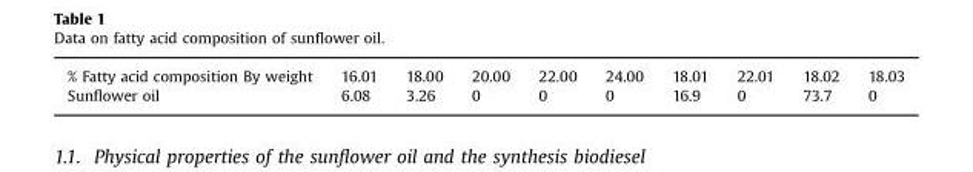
<table><tbody><tr><td>% Fatty acid composition By weight</td><td>16.01</td><td>18.00</td><td>20.00</td><td>22.00</td><td>24.00</td><td>18.01</td><td>22.01</td><td>18.02</td><td>18.03</td></tr><tr><td>Sunflower oil</td><td>6.08</td><td>3.26</td><td>0</td><td>0</td><td>0</td><td>16.9</td><td>0</td><td>73.7</td><td>0</td></tr></tbody></table>